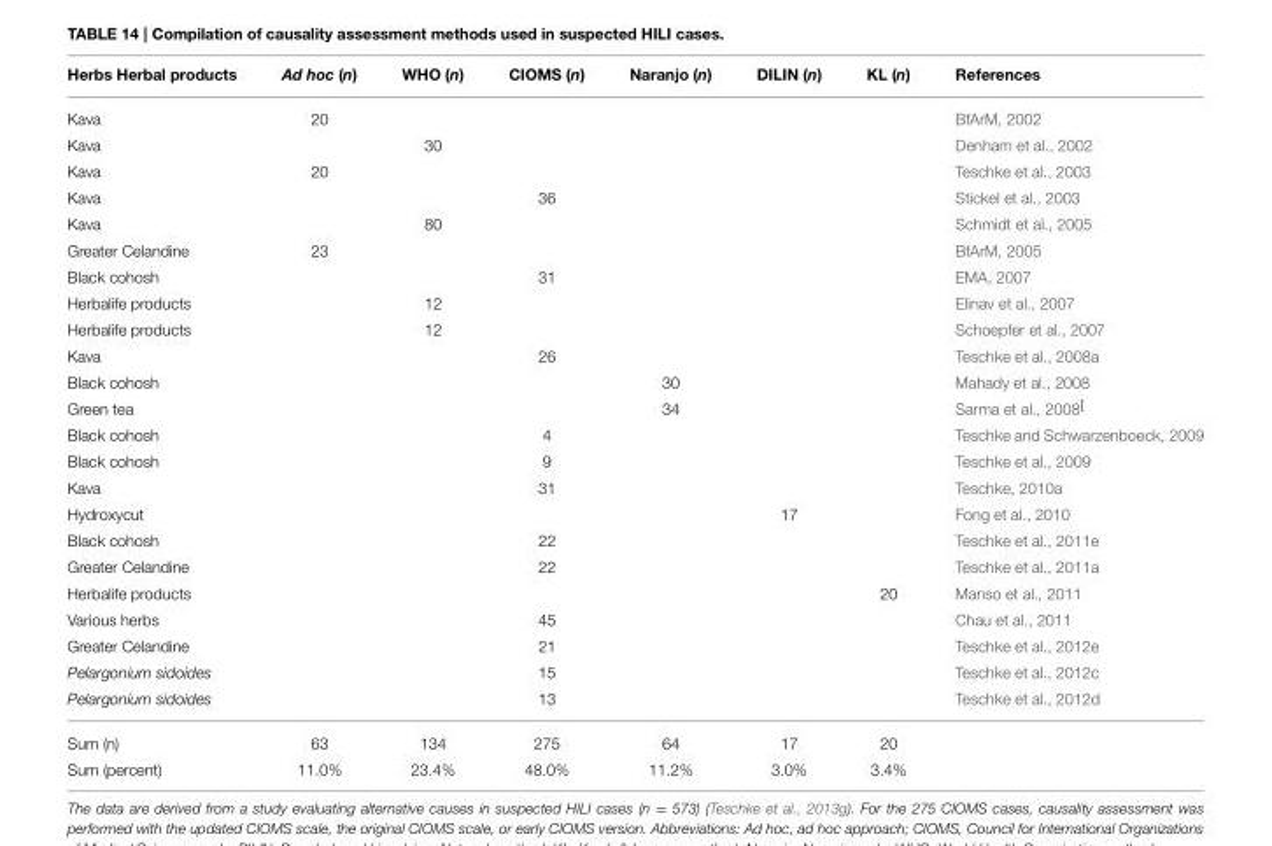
<table><thead><tr><td>Herbs Herbal products</td><td>Ad hoc (n)</td><td>WHO (n)</td><td>CIOMS (n)</td><td>Naranjo (n)</td><td>DILIN (n)</td><td>KL (n)</td><td>References</td></tr></thead><tbody><tr><td>Kava</td><td>20</td><td></td><td></td><td></td><td></td><td></td><td>BfArM, 2002</td></tr><tr><td>Kava</td><td></td><td>30</td><td></td><td></td><td></td><td></td><td>Denham et al., 2002</td></tr><tr><td>Kava</td><td>20</td><td></td><td></td><td></td><td></td><td></td><td>Teschke et al., 2003</td></tr><tr><td>Kava</td><td></td><td></td><td>36</td><td></td><td></td><td></td><td>Stickel et al., 2003</td></tr><tr><td>Kava</td><td></td><td>80</td><td></td><td></td><td></td><td></td><td>Schmidt et al., 2005</td></tr><tr><td>Greater Celandine</td><td>23</td><td></td><td></td><td></td><td></td><td></td><td>BfArM, 2005</td></tr><tr><td>Black cohosh</td><td></td><td></td><td>31</td><td></td><td></td><td></td><td>EMA, 2007</td></tr><tr><td>Herbalife products</td><td></td><td>12</td><td></td><td></td><td></td><td></td><td>Elinav et al., 2007</td></tr><tr><td>Herbalife products</td><td></td><td>12</td><td></td><td></td><td></td><td></td><td>Schoepfer et al., 2007</td></tr><tr><td>Kava</td><td></td><td></td><td>26</td><td></td><td></td><td></td><td>Teschke et al., 2008a</td></tr><tr><td>Black cohosh</td><td></td><td></td><td></td><td>30</td><td></td><td></td><td>Mahady et al., 2008</td></tr><tr><td>Green tea</td><td></td><td></td><td></td><td>34</td><td></td><td></td><td>Sarma et al., 2008<sup>[</sup></td></tr><tr><td>Black cohosh</td><td></td><td></td><td>4</td><td></td><td></td><td></td><td>Teschke and Schwarzenboeck, 2009</td></tr><tr><td>Black cohosh</td><td></td><td></td><td>9</td><td></td><td></td><td></td><td>Teschke et al., 2009</td></tr><tr><td>Kava</td><td></td><td></td><td>31</td><td></td><td></td><td></td><td>Teschke, 2010a</td></tr><tr><td>Hydroxycut</td><td></td><td></td><td></td><td></td><td>17</td><td></td><td>Fong et al., 2010</td></tr><tr><td>Black cohosh</td><td></td><td></td><td>22</td><td></td><td></td><td></td><td>Teschke et al., 2011e</td></tr><tr><td>Greater Celandine</td><td></td><td></td><td>22</td><td></td><td></td><td></td><td>Teschke et al., 2011a</td></tr><tr><td>Herbalife products</td><td></td><td></td><td></td><td></td><td></td><td>20</td><td>Manso et al., 2011</td></tr><tr><td>Various herbs</td><td></td><td></td><td>45</td><td></td><td></td><td></td><td>Chau et al., 2011</td></tr><tr><td>Greater Celandine</td><td></td><td></td><td>21</td><td></td><td></td><td></td><td>Teschke et al., 2012e</td></tr><tr><td>Pelargonium sidoides</td><td></td><td></td><td>15</td><td></td><td></td><td></td><td>Teschke et al., 2012c</td></tr><tr><td>Pelargonium sidoides</td><td></td><td></td><td>13</td><td></td><td></td><td></td><td>Teschke et al., 2012d</td></tr><tr><td>Sum (n)</td><td>63</td><td>134</td><td>275</td><td>64</td><td>17</td><td>20</td><td></td></tr><tr><td>Sum (percent)</td><td>11.0%</td><td>23.4%</td><td>48.0%</td><td>11.2%</td><td>3.0%</td><td>3.4%</td><td></td></tr></tbody></table>